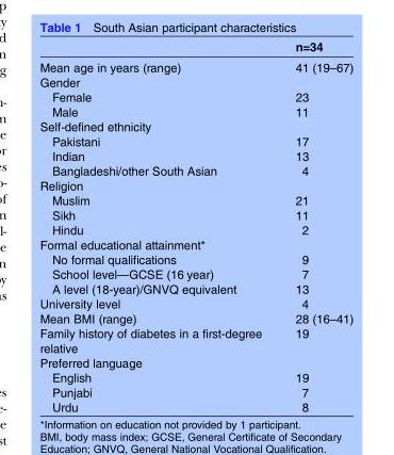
<table><thead><tr><td></td><td>n=34</td></tr></thead><tbody><tr><td>Mean age in years (range)</td><td>41 (19–67)</td></tr><tr><td colspan="2">Gender</td></tr><tr><td>Female</td><td>23</td></tr><tr><td>Male</td><td>11</td></tr><tr><td colspan="2">Self-defined ethnicity</td></tr><tr><td>Pakistani</td><td>17</td></tr><tr><td>Indian</td><td>13</td></tr><tr><td>Bangladeshi/other South Asian</td><td>4</td></tr><tr><td colspan="2">Religion</td></tr><tr><td>Muslim</td><td>21</td></tr><tr><td>Sikh</td><td>11</td></tr><tr><td>Hindu</td><td>2</td></tr><tr><td colspan="2">Formal educational attainment*</td></tr><tr><td>No formal qualifications</td><td>9</td></tr><tr><td>School level—GCSE (16 year)</td><td>7</td></tr><tr><td>A level (18-year)/GNVQ equivalent</td><td>13</td></tr><tr><td>University level</td><td>4</td></tr><tr><td>Mean BMI (range)</td><td>28 (16–41)</td></tr><tr><td>Family history of diabetes in a first-degree relative</td><td>19</td></tr><tr><td colspan="2">Preferred language</td></tr><tr><td>English</td><td>19</td></tr><tr><td>Punjabi</td><td>7</td></tr><tr><td>Urdu</td><td>8</td></tr></tbody></table>